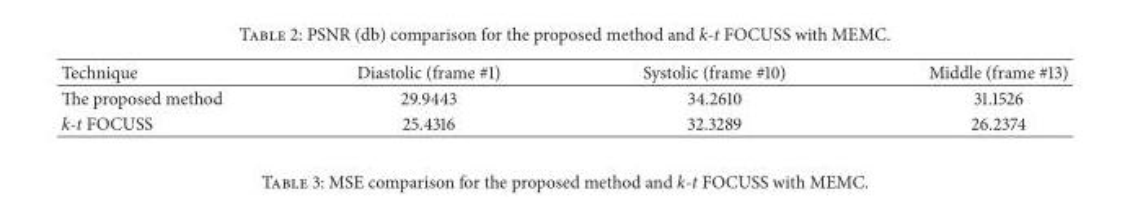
<table><thead><tr><td>Technique</td><td>Diastolic (frame #1)</td><td>Systolic (frame #10)</td><td>Middle (frame #13)</td></tr></thead><tbody><tr><td>The proposed method</td><td>29.9443</td><td>34.2610</td><td>31.1526</td></tr><tr><td>k-t FOCUSS</td><td>25.4316</td><td>32.3289</td><td>26.2374</td></tr></tbody></table>